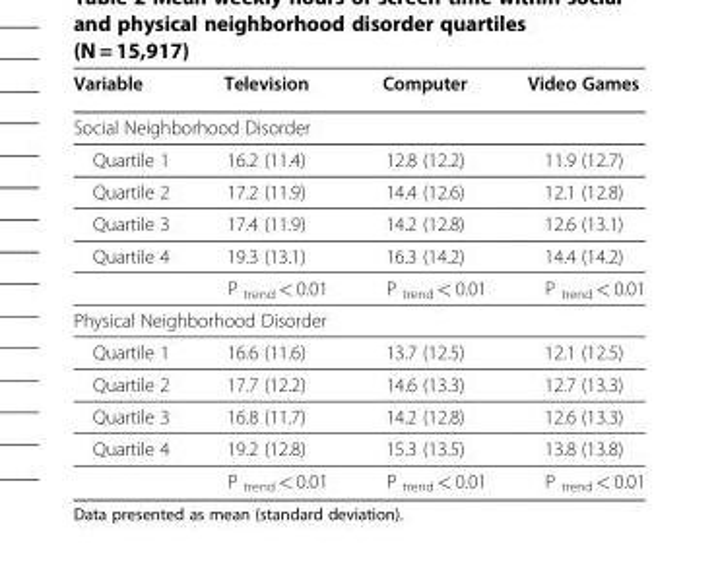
<table><thead><tr><td>Variable</td><td>Television</td><td>Computer</td><td>Video Games</td></tr></thead><tbody><tr><td colspan="4">Social Neighborhood Disorder</td></tr><tr><td>Quartile 1</td><td>16.2 (11.4)</td><td>12.8 (12.2)</td><td>11.9 (12.7)</td></tr><tr><td>Quartile 2</td><td>17.2 (11.9)</td><td>14.4 (12.6)</td><td>12.1 (12.8)</td></tr><tr><td>Quartile 3</td><td>17.4 (11.9)</td><td>14.2 (12.8)</td><td>12.6 (13.1)</td></tr><tr><td rowspan="2">Quartile 4</td><td>19.3 (13.1)</td><td>16.3 (14.2)</td><td>14.4 (14.2)</td></tr><tr><td>P <sub>trend</sub> &lt; 0.01</td><td>P <sub>trend</sub> &lt; 0.01</td><td>P <sub>trend</sub> &lt; 0.01</td></tr><tr><td colspan="4">Physical Neighborhood Disorder</td></tr><tr><td>Quartile 1</td><td>16.6 (11.6)</td><td>13.7 (12.5)</td><td>12.1 (12.5)</td></tr><tr><td>Quartile 2</td><td>17.7 (12.2)</td><td>14.6 (13.3)</td><td>12.7 (13.3)</td></tr><tr><td>Quartile 3</td><td>16.8 (11.7)</td><td>14.2 (12.8)</td><td>12.6 (13.3)</td></tr><tr><td rowspan="2">Quartile 4</td><td>19.2 (12.8)</td><td>15.3 (13.5)</td><td>13.8 (13.8)</td></tr><tr><td>P <sub>trend</sub> &lt; 0.01</td><td>P <sub>trend</sub> &lt; 0.01</td><td>P <sub>trend</sub> &lt; 0.01</td></tr></tbody></table>